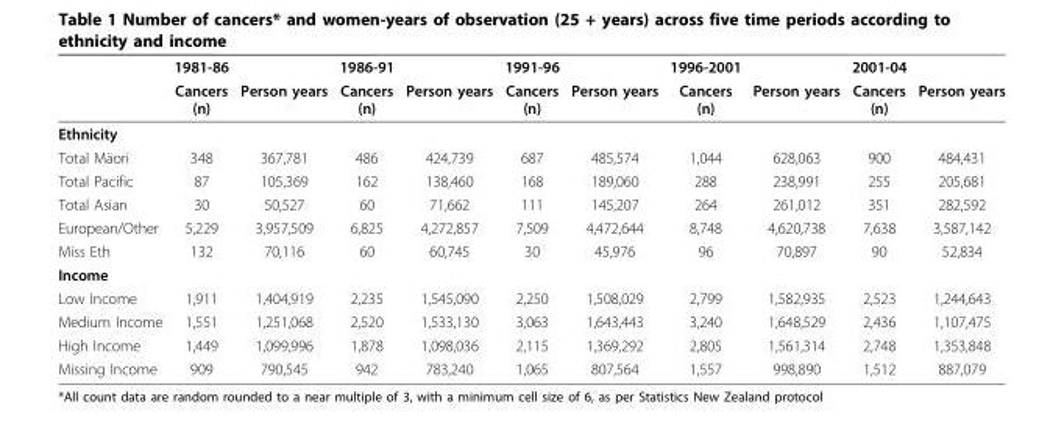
<table><thead><tr><td rowspan="2"></td><td rowspan="2">1981-86 Cancers (n)</td><td rowspan="2">Person years</td><td rowspan="2">1986-91 Cancers (n)</td><td rowspan="2">Person years</td><td rowspan="2">1991-96 Cancers (n)</td><td rowspan="2">Person years</td><td rowspan="2">1996-2001 Cancers (n)</td><td rowspan="2">Person years</td><td rowspan="2">2001-04 Cancers (n)</td><td rowspan="2">Person years</td></tr><tr></tr></thead><tbody><tr><td colspan="11">Ethnicity</td></tr><tr><td>Total Mäori</td><td>348</td><td>367,781</td><td>486</td><td>424,739</td><td>687</td><td>485,574</td><td>1,044</td><td>628,063</td><td>900</td><td>484,431</td></tr><tr><td>Total Pacific</td><td>87</td><td>105,369</td><td>162</td><td>138,460</td><td>168</td><td>189,060</td><td>288</td><td>238,991</td><td>255</td><td>205,681</td></tr><tr><td>Total Asian</td><td>30</td><td>50,527</td><td>60</td><td>71,662</td><td>111</td><td>145,207</td><td>264</td><td>261,012</td><td>351</td><td>282,592</td></tr><tr><td>European/Other</td><td>5,229</td><td>3,957,509</td><td>6,825</td><td>4,272,857</td><td>7,509</td><td>4,472,644</td><td>8,748</td><td>4,620,738</td><td>7,638</td><td>3,587,142</td></tr><tr><td>Miss Eth</td><td>132</td><td>70,116</td><td>60</td><td>60,745</td><td>30</td><td>45,976</td><td>96</td><td>70,897</td><td>90</td><td>52,834</td></tr><tr><td colspan="11">Income</td></tr><tr><td>Low Income</td><td>1,911</td><td>1,404,919</td><td>2,235</td><td>1,545,090</td><td>2,250</td><td>1,508,029</td><td>2,799</td><td>1,582,935</td><td>2,523</td><td>1,244,643</td></tr><tr><td>Medium Income</td><td>1,551</td><td>1,251,068</td><td>2,520</td><td>1,533,130</td><td>3,063</td><td>1,643,443</td><td>3,240</td><td>1,648,529</td><td>2,436</td><td>1,107,475</td></tr><tr><td>High Income</td><td>1,449</td><td>1,099,996</td><td>1,878</td><td>1,098,036</td><td>2,115</td><td>1,369,292</td><td>2,805</td><td>1,561,314</td><td>2,748</td><td>1,353,848</td></tr><tr><td>Missing Income</td><td>909</td><td>790,545</td><td>942</td><td>783,240</td><td>1,065</td><td>807,564</td><td>1,557</td><td>998,890</td><td>1,512</td><td>887,079</td></tr></tbody></table>